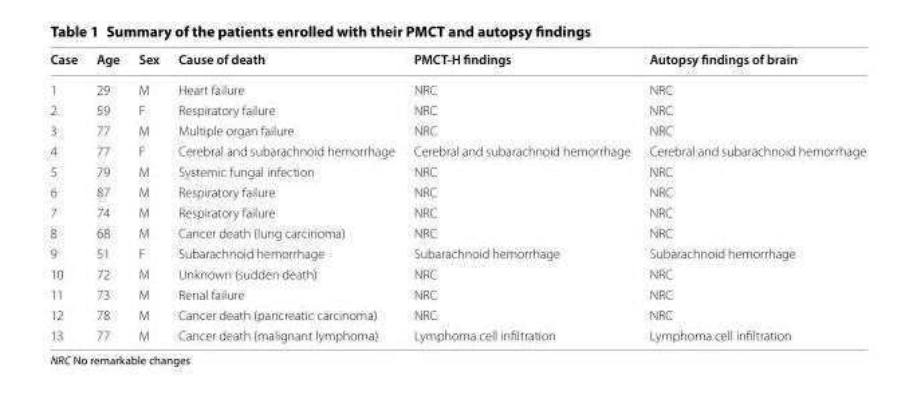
<table><thead><tr><td>Case</td><td>Age</td><td>Sex</td><td>Cause of death</td><td>PMCT-H findings</td><td>Autopsy findings of brain</td></tr></thead><tbody><tr><td>1</td><td>29</td><td>M</td><td>Heart failure</td><td>NRC</td><td>NRC</td></tr><tr><td>2</td><td>59</td><td>F</td><td>Respiratory failure</td><td>NRC</td><td>NRC</td></tr><tr><td>3</td><td>77</td><td>M</td><td>Multiple organ failure</td><td>NRC</td><td>NRC</td></tr><tr><td>4</td><td>77</td><td>F</td><td>Cerebral and subarachnoid hemorrhage</td><td>Cerebral and subarachnoid hemorrhage</td><td>Cerebral and subarachnoid hemorrhage</td></tr><tr><td>5</td><td>79</td><td>M</td><td>Systemic fungal infection</td><td>NRC</td><td>NRC</td></tr><tr><td>6</td><td>87</td><td>M</td><td>Respiratory failure</td><td>NRC</td><td>NRC</td></tr><tr><td>7</td><td>74</td><td>M</td><td>Respiratory failure</td><td>NRC</td><td>NRC</td></tr><tr><td>8</td><td>68</td><td>M</td><td>Cancer death (lung carcinoma)</td><td>NRC</td><td>NRC</td></tr><tr><td>9</td><td>51</td><td>F</td><td>Subarachnoid hemorrhage</td><td>Subarachnoid hemorrhage</td><td>Subarachnoid hemorrhage</td></tr><tr><td>10</td><td>72</td><td>M</td><td>Unknown (sudden death)</td><td>NRC</td><td>NRC</td></tr><tr><td>11</td><td>73</td><td>M</td><td>Renal failure</td><td>NRC</td><td>NRC</td></tr><tr><td>12</td><td>78</td><td>M</td><td>Cancer death (pancreatic carcinoma)</td><td>NRC</td><td>NRC</td></tr><tr><td>13</td><td>77</td><td>M</td><td>Cancer death (malignant lymphoma)</td><td>Lymphoma cell infiltration</td><td>Lymphoma cell infiltration</td></tr></tbody></table>